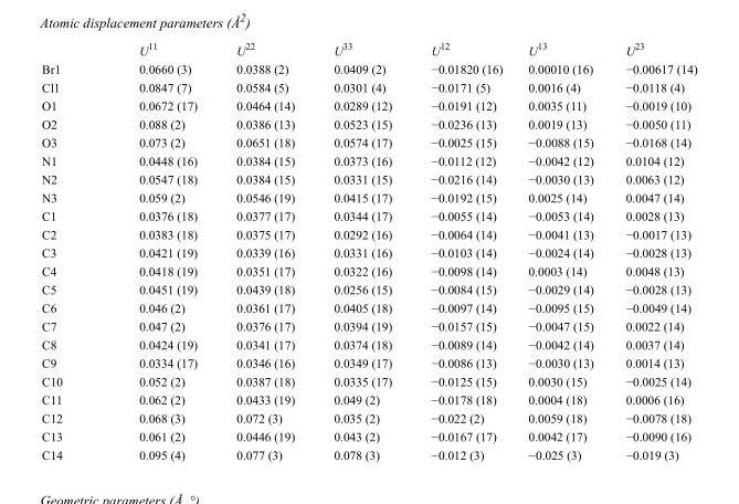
<table><thead><tr><td></td><td>U<sup>11</sup></td><td>U<sup>22</sup></td><td>U<sup>33</sup></td><td>U<sup>12</sup></td><td>U<sup>13</sup></td><td>U<sup>23</sup></td></tr></thead><tbody><tr><td>Br1</td><td>0.0660 (3)</td><td>0.0388 (2)</td><td>0.0409 (2)</td><td>−0.01820 (16)</td><td>0.00010 (16)</td><td>−0.00617 (14)</td></tr><tr><td>Cl1</td><td>0.0847 (7)</td><td>0.0584 (5)</td><td>0.0301 (4)</td><td>−0.0171 (5)</td><td>0.0016 (4)</td><td>−0.0118 (4)</td></tr><tr><td>O1</td><td>0.0672 (17)</td><td>0.0464 (14)</td><td>0.0289 (12)</td><td>−0.0191 (12)</td><td>0.0035 (11)</td><td>−0.0019 (10)</td></tr><tr><td>O2</td><td>0.088 (2)</td><td>0.0386 (13)</td><td>0.0523 (15)</td><td>−0.0236 (13)</td><td>0.0019 (13)</td><td>−0.0050 (11)</td></tr><tr><td>O3</td><td>0.073 (2)</td><td>0.0651 (18)</td><td>0.0574 (17)</td><td>−0.0025 (15)</td><td>−0.0088 (15)</td><td>−0.0168 (14)</td></tr><tr><td>N1</td><td>0.0448 (16)</td><td>0.0384 (15)</td><td>0.0373 (16)</td><td>−0.0112 (12)</td><td>−0.0042 (12)</td><td>0.0104 (12)</td></tr><tr><td>N2</td><td>0.0547 (18)</td><td>0.0384 (15)</td><td>0.0331 (15)</td><td>−0.0216 (14)</td><td>−0.0030 (13)</td><td>0.0063 (12)</td></tr><tr><td>N3</td><td>0.059 (2)</td><td>0.0546 (19)</td><td>0.0415 (17)</td><td>−0.0192 (15)</td><td>0.0025 (14)</td><td>0.0047 (14)</td></tr><tr><td>C1</td><td>0.0376 (18)</td><td>0.0377 (17)</td><td>0.0344 (17)</td><td>−0.0055 (14)</td><td>−0.0053 (14)</td><td>0.0028 (13)</td></tr><tr><td>C2</td><td>0.0383 (18)</td><td>0.0375 (17)</td><td>0.0292 (16)</td><td>−0.0064 (14)</td><td>−0.0041 (13)</td><td>−0.0017 (13)</td></tr><tr><td>C3</td><td>0.0421 (19)</td><td>0.0339 (16)</td><td>0.0331 (16)</td><td>−0.0103 (14)</td><td>−0.0024 (14)</td><td>−0.0028 (13)</td></tr><tr><td>C4</td><td>0.0418 (19)</td><td>0.0351 (17)</td><td>0.0322 (16)</td><td>−0.0098 (14)</td><td>0.0003 (14)</td><td>0.0048 (13)</td></tr><tr><td>C5</td><td>0.0451 (19)</td><td>0.0439 (18)</td><td>0.0256 (15)</td><td>−0.0084 (15)</td><td>−0.0029 (14)</td><td>−0.0028 (13)</td></tr><tr><td>C6</td><td>0.046 (2)</td><td>0.0361 (17)</td><td>0.0405 (18)</td><td>−0.0097 (14)</td><td>−0.0095 (15)</td><td>−0.0049 (14)</td></tr><tr><td>C7</td><td>0.047 (2)</td><td>0.0376 (17)</td><td>0.0394 (19)</td><td>−0.0157 (15)</td><td>−0.0047 (15)</td><td>0.0022 (14)</td></tr><tr><td>C8</td><td>0.0424 (19)</td><td>0.0341 (17)</td><td>0.0374 (18)</td><td>−0.0089 (14)</td><td>−0.0042 (14)</td><td>0.0037 (14)</td></tr><tr><td>C9</td><td>0.0334 (17)</td><td>0.0346 (16)</td><td>0.0349 (17)</td><td>−0.0086 (13)</td><td>−0.0030 (13)</td><td>0.0014 (13)</td></tr><tr><td>C10</td><td>0.052 (2)</td><td>0.0387 (18)</td><td>0.0335 (17)</td><td>−0.0125 (15)</td><td>0.0030 (15)</td><td>−0.0025 (14)</td></tr><tr><td>C11</td><td>0.062 (2)</td><td>0.0433 (19)</td><td>0.049 (2)</td><td>−0.0178 (18)</td><td>0.0004 (18)</td><td>0.0006 (16)</td></tr><tr><td>C12</td><td>0.068 (3)</td><td>0.072 (3)</td><td>0.035 (2)</td><td>−0.022 (2)</td><td>0.0059 (18)</td><td>−0.0078 (18)</td></tr><tr><td>C13</td><td>0.061 (2)</td><td>0.0446 (19)</td><td>0.043 (2)</td><td>−0.0167 (17)</td><td>0.0042 (17)</td><td>−0.0090 (16)</td></tr><tr><td>C14</td><td>0.095 (4)</td><td>0.077 (3)</td><td>0.078 (3)</td><td>−0.012 (3)</td><td>−0.025 (3)</td><td>−0.019 (3)</td></tr></tbody></table>